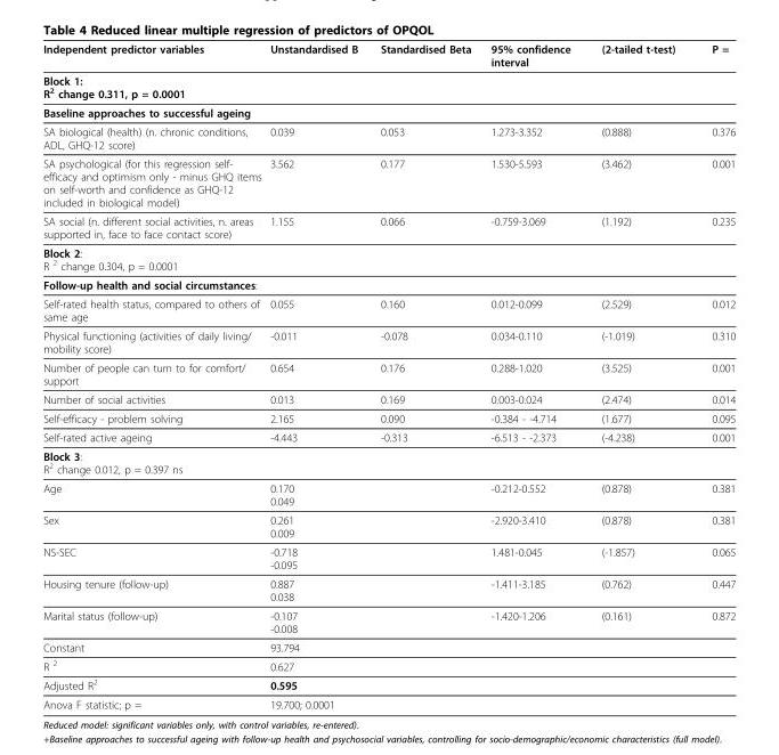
<table><thead><tr><td>Independent predictor variables</td><td>Unstandardised B</td><td>Standardised Beta</td><td>95% confidence interval</td><td>(2-tailed t-test)</td><td>P =</td></tr></thead><tbody><tr><td colspan="6">Block 1: R<sup>2</sup> change 0.311, p = 0.0001</td></tr><tr><td colspan="6">Baseline approaches to successful ageing</td></tr><tr><td>SA biological (health) (n. chronic conditions, ADL, GHQ-12 score)</td><td>0.039</td><td>0.053</td><td>1.273-3.352</td><td>(0.888)</td><td>0.376</td></tr><tr><td>SA psychological (for this regression self- efficacy and optimism only - minus GHQ items on self-worth and confidence as GHQ-12 included in biological model)</td><td>3.562</td><td>0.177</td><td>1.530-5.593</td><td>(3.462)</td><td>0.001</td></tr><tr><td>SA social (n. different social activities, n. areas supported in, face to face contact score)</td><td>1.155</td><td>0.066</td><td>-0.759-3.069</td><td>(1.192)</td><td>0.235</td></tr><tr><td colspan="6">Block 2: R <sup>2</sup> change 0.304, p = 0.0001</td></tr><tr><td colspan="6">Follow-up health and social circumstances:</td></tr><tr><td>Self-rated health status, compared to others of same age</td><td>0.055</td><td>0.160</td><td>0.012-0.099</td><td>(2.529)</td><td>0.012</td></tr><tr><td>Physical functioning (activities of daily living/ mobility score)</td><td>-0.011</td><td>-0.078</td><td>0.034-0.110</td><td>(-1.019)</td><td>0.310</td></tr><tr><td>Number of people can turn to for comfort/ support</td><td>0.654</td><td>0.176</td><td>0.288-1.020</td><td>(3.525)</td><td>0.001</td></tr><tr><td>Number of social activities</td><td>0.013</td><td>0.169</td><td>0.003-0.024</td><td>(2.474)</td><td>0.014</td></tr><tr><td>Self-efficacy - problem solving</td><td>2.165</td><td>0.090</td><td>-0.384 - -4.714</td><td>(1.677)</td><td>0.095</td></tr><tr><td>Self-rated active ageing</td><td>-4.443</td><td>-0.313</td><td>-6.513 - -2.373</td><td>(-4.238)</td><td>0.001</td></tr><tr><td colspan="6">Block 3: R<sup>2</sup> change 0.012, p = 0.397 ns</td></tr><tr><td>Age</td><td>0.170 0.049</td><td></td><td>-0.212-0.552</td><td>(0.878)</td><td>0.381</td></tr><tr><td>Sex</td><td>0.261 0.009</td><td></td><td>-2.920-3.410</td><td>(0.878)</td><td>0.381</td></tr><tr><td>NS-SEC</td><td>-0.718 -0.095</td><td></td><td>1.481-0.045</td><td>(-1.857)</td><td>0.065</td></tr><tr><td>Housing tenure (follow-up)</td><td>0.887 0.038</td><td></td><td>-1.411-3.185</td><td>(0.762)</td><td>0.447</td></tr><tr><td>Marital status (follow-up)</td><td>-0.107 -0.008</td><td></td><td>-1.420-1.206</td><td>(0.161)</td><td>0.872</td></tr><tr><td>Constant</td><td>93.794</td><td></td><td></td><td></td><td></td></tr><tr><td>R <sup>2</sup></td><td>0.627</td><td></td><td></td><td></td><td></td></tr><tr><td>Adjusted R<sup>2</sup></td><td>0.595</td><td></td><td></td><td></td><td></td></tr><tr><td>Anova F statistic; p =</td><td>19.700; 0.0001</td><td></td><td></td><td></td><td></td></tr></tbody></table>